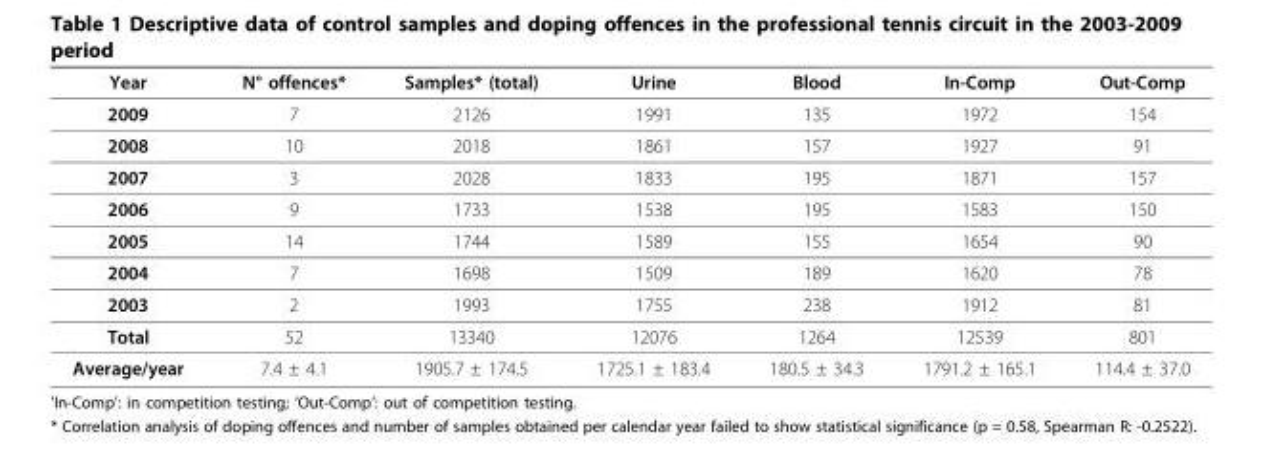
<table><thead><tr><td>Year</td><td>N° offences*</td><td>Samples* (total)</td><td>Urine</td><td>Blood</td><td>In-Comp</td><td>Out-Comp</td></tr></thead><tbody><tr><td>2009</td><td>7</td><td>2126</td><td>1991</td><td>135</td><td>1972</td><td>154</td></tr><tr><td>2008</td><td>10</td><td>2018</td><td>1861</td><td>157</td><td>1927</td><td>91</td></tr><tr><td>2007</td><td>3</td><td>2028</td><td>1833</td><td>195</td><td>1871</td><td>157</td></tr><tr><td>2006</td><td>9</td><td>1733</td><td>1538</td><td>195</td><td>1583</td><td>150</td></tr><tr><td>2005</td><td>14</td><td>1744</td><td>1589</td><td>155</td><td>1654</td><td>90</td></tr><tr><td>2004</td><td>7</td><td>1698</td><td>1509</td><td>189</td><td>1620</td><td>78</td></tr><tr><td>2003</td><td>2</td><td>1993</td><td>1755</td><td>238</td><td>1912</td><td>81</td></tr><tr><td>Total</td><td>52</td><td>13340</td><td>12076</td><td>1264</td><td>12539</td><td>801</td></tr><tr><td>Average/year</td><td>7.4 ± 4.1</td><td>1905.7 ± 174.5</td><td>1725.1 ± 183.4</td><td>180.5 ± 34.3</td><td>1791.2 ± 165.1</td><td>114.4 ± 37.0</td></tr></tbody></table>